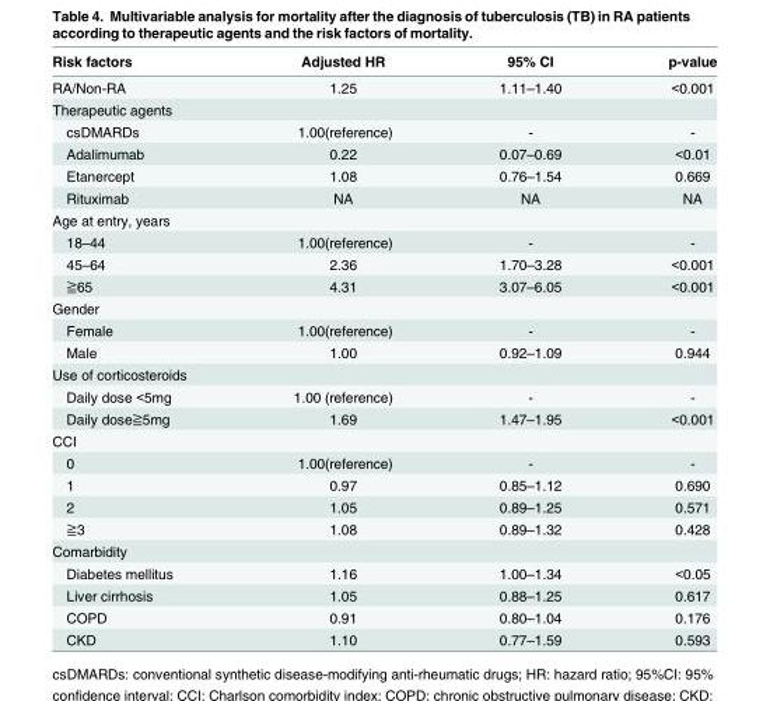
<table><thead><tr><td>Risk factors</td><td>Adjusted HR</td><td>95% CI</td><td>p-value</td></tr></thead><tbody><tr><td>RA/Non-RA</td><td>1.25</td><td>1.11–1.40</td><td>&lt;0.001</td></tr><tr><td colspan="4">Therapeutic agents</td></tr><tr><td>csDMARDs</td><td>1.00(reference)</td><td>-</td><td>-</td></tr><tr><td>Adalimumab</td><td>0.22</td><td>0.07–0.69</td><td>&lt;0.01</td></tr><tr><td>Etanercept</td><td>1.08</td><td>0.76–1.54</td><td>0.669</td></tr><tr><td>Rituximab</td><td>NA</td><td>NA</td><td>NA</td></tr><tr><td colspan="4">Age at entry, years</td></tr><tr><td>18–44</td><td>1.00(reference)</td><td>-</td><td>-</td></tr><tr><td>45–64</td><td>2.36</td><td>1.70–3.28</td><td>&lt;0.001</td></tr><tr><td>≧65</td><td>4.31</td><td>3.07–6.05</td><td>&lt;0.001</td></tr><tr><td colspan="4">Gender</td></tr><tr><td>Female</td><td>1.00(reference)</td><td>-</td><td>-</td></tr><tr><td>Male</td><td>1.00</td><td>0.92–1.09</td><td>0.944</td></tr><tr><td colspan="4">Use of corticosteroids</td></tr><tr><td>Daily dose &lt;5mg</td><td>1.00 (reference)</td><td>-</td><td>-</td></tr><tr><td>Daily dose≧5mg</td><td>1.69</td><td>1.47–1.95</td><td>&lt;0.001</td></tr><tr><td colspan="4">CCI</td></tr><tr><td>0</td><td>1.00(reference)</td><td>-</td><td>-</td></tr><tr><td>1</td><td>0.97</td><td>0.85–1.12</td><td>0.690</td></tr><tr><td>2</td><td>1.05</td><td>0.89–1.25</td><td>0.571</td></tr><tr><td>≧3</td><td>1.08</td><td>0.89–1.32</td><td>0.428</td></tr><tr><td colspan="4">Comarbidity</td></tr><tr><td>Diabetes mellitus</td><td>1.16</td><td>1.00–1.34</td><td>&lt;0.05</td></tr><tr><td>Liver cirrhosis</td><td>1.05</td><td>0.88–1.25</td><td>0.617</td></tr><tr><td>COPD</td><td>0.91</td><td>0.80–1.04</td><td>0.176</td></tr><tr><td>CKD</td><td>1.10</td><td>0.77–1.59</td><td>0.593</td></tr></tbody></table>